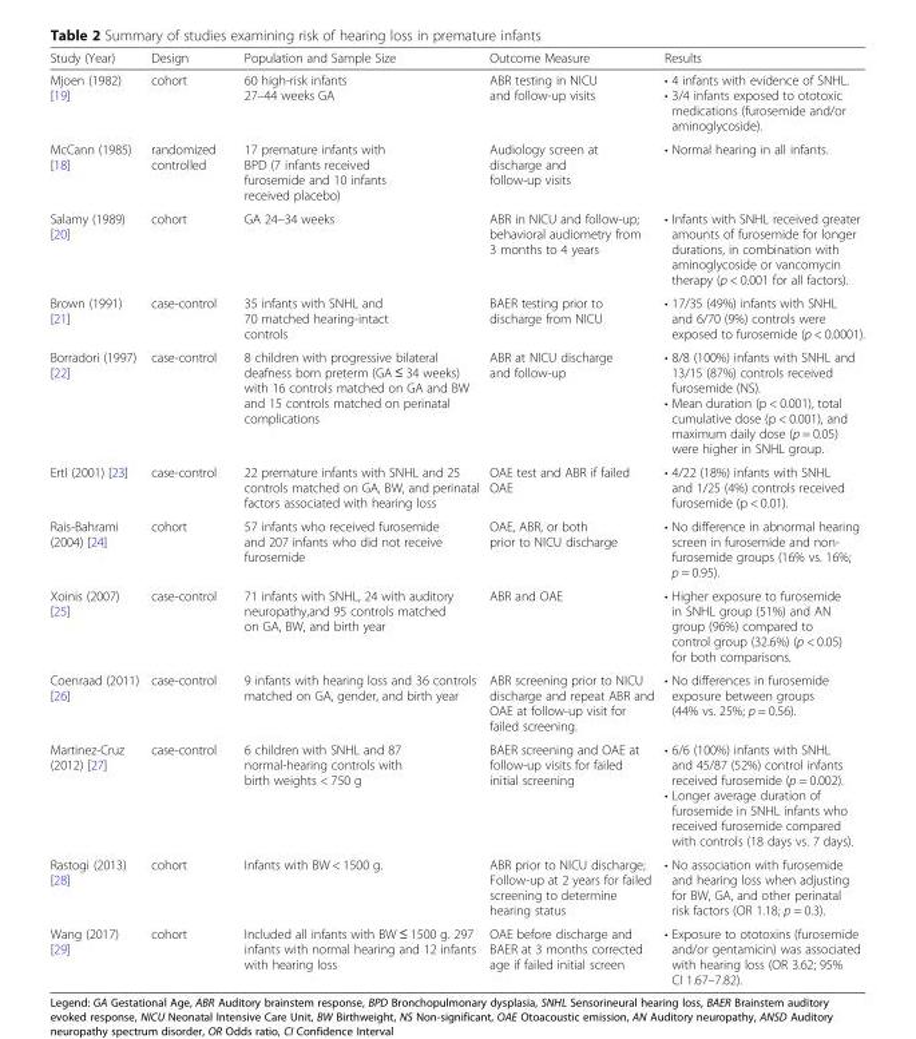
<table><thead><tr><td>Study (Year)</td><td>Design</td><td>Population and Sample Size</td><td>Outcome Measure</td><td>Results</td></tr></thead><tbody><tr><td>Mjoen (1982) [19]</td><td>cohort</td><td>60 high-risk infants 27–44 weeks GA</td><td>ABR testing in NICU and follow-up visits</td><td>• 4 infants with evidence of SNHL. • 3/4 infants exposed to ototoxic medications (furosemide and/or aminoglycoside).</td></tr><tr><td>McCann (1985) [18]</td><td>randomized controlled</td><td>17 premature infants with BPD (7 infants received furosemide and 10 infants received placebo)</td><td>Audiology screen at discharge and follow-up visits</td><td>• Normal hearing in all infants.</td></tr><tr><td>Salamy (1989) [20]</td><td>cohort</td><td>GA 24–34 weeks</td><td>ABR in NICU and follow-up; behavioral audiometry from 3 months to 4 years</td><td>• Infants with SNHL received greater amounts of furosemide for longer durations, in combination with aminoglycoside or vancomycin therapy (p &lt; 0.001 for all factors).</td></tr><tr><td>Brown (1991) [21]</td><td>case-control</td><td>35 infants with SNHL and 70 matched hearing-intact controls</td><td>BAER testing prior to discharge from NICU</td><td>• 17/35 (49%) infants with SNHL and 6/70 (9%) controls were exposed to furosemide (p &lt; 0.0001).</td></tr><tr><td>Borradori (1997) [22]</td><td>case-control</td><td>8 children with progressive bilateral deafness born preterm (GA ≤ 34 weeks) with 16 controls matched on GA and BW and 15 controls matched on perinatal complications</td><td>ABR at NICU discharge and follow-up</td><td>• 8/8 (100%) infants with SNHL and 13/15 (87%) controls received furosemide (NS). • Mean duration (p &lt; 0.001), total cumulative dose (p &lt; 0.001), and maximum daily dose (p = 0.05) were higher in SNHL group.</td></tr><tr><td>Ertl (2001) [23]</td><td>case-control</td><td>22 premature infants with SNHL and 25 controls matched on GA, BW, and perinatal factors associated with hearing loss</td><td>OAE test and ABR if failed OAE</td><td>• 4/22 (18%) infants with SNHL and 1/25 (4%) controls received furosemide (p &lt; 0.01).</td></tr><tr><td>Rais-Bahrami (2004) [24]</td><td>cohort</td><td>57 infants who received furosemide and 207 infants who did not receive furosemide</td><td>OAE, ABR, or both prior to NICU discharge</td><td>• No difference in abnormal hearing screen in furosemide and non- furosemide groups (16% vs. 16%; p = 0.95).</td></tr><tr><td>Xoinis (2007) [25]</td><td>case-control</td><td>71 infants with SNHL, 24 with auditory neuropathy,and 95 controls matched on GA, BW, and birth year</td><td>ABR and OAE</td><td>• Higher exposure to furosemide in SNHL group (51%) and AN group (96%) compared to control group (32.6%) (p &lt; 0.05) for both comparisons.</td></tr><tr><td>Coenraad (2011) [26]</td><td>case-control</td><td>9 infants with hearing loss and 36 controls matched on GA, gender, and birth year</td><td>ABR screening prior to NICU discharge and repeat ABR and OAE at follow-up visit for failed screening.</td><td>• No differences in furosemide exposure between groups (44% vs. 25%; p = 0.56).</td></tr><tr><td>Martinez-Cruz (2012) [27]</td><td>case-control</td><td>6 children with SNHL and 87 normal-hearing controls with birth weights &lt; 750 g</td><td>BAER screening and OAE at follow-up visits for failed initial screening</td><td>• 6/6 (100%) infants with SNHL and 45/87 (52%) control infants received furosemide (p = 0.002). • Longer average duration of furosemide in SNHL infants who received furosemide compared with controls (18 days vs. 7 days).</td></tr><tr><td>Rastogi (2013) [28]</td><td>cohort</td><td>Infants with BW &lt; 1500 g.</td><td>ABR prior to NICU discharge; Follow-up at 2 years for failed screening to determine hearing status</td><td>• No association with furosemide and hearing loss when adjusting for BW, GA, and other perinatal risk factors (OR 1.18; p = 0.3).</td></tr><tr><td>Wang (2017) [29]</td><td>cohort</td><td>Included all infants with BW ≤ 1500 g. 297 infants with normal hearing and 12 infants with hearing loss</td><td>OAE before discharge and BAER at 3 months corrected age if failed initial screen</td><td>• Exposure to ototoxins (furosemide and/or gentamicin) was associated with hearing loss (OR 3.62; 95% CI 1.67–7.82).</td></tr></tbody></table>